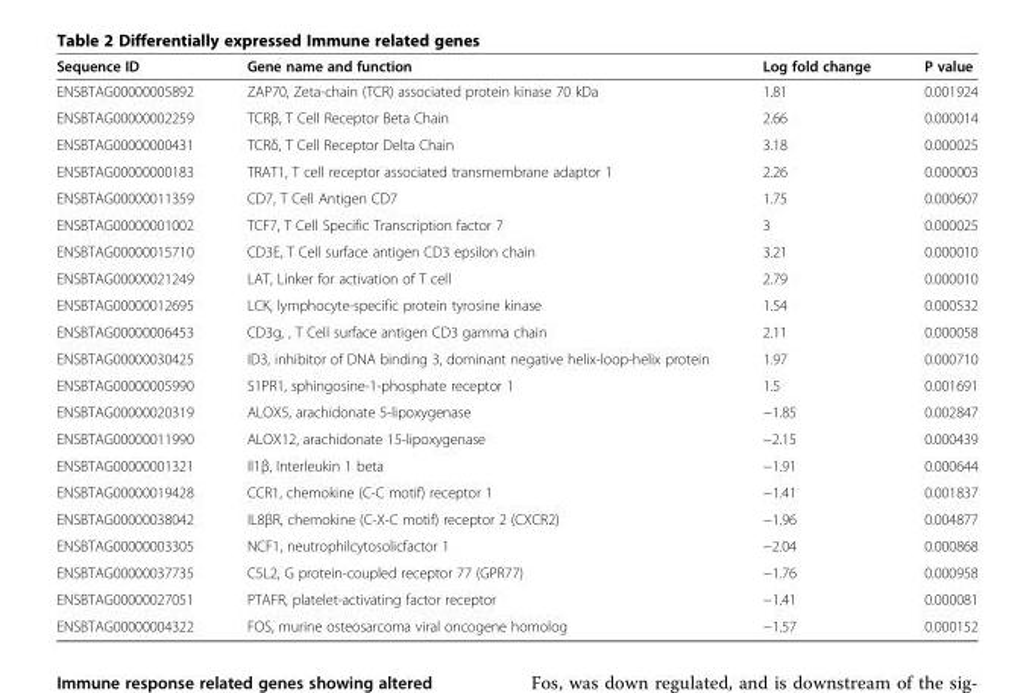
<table><thead><tr><td>Sequence ID</td><td>Gene name and function</td><td>Log fold change</td><td>P value</td></tr></thead><tbody><tr><td>ENSBTAG00000005892</td><td>ZAP70, Zeta-chain (TCR) associated protein kinase 70 kDa</td><td>1.81</td><td>0.001924</td></tr><tr><td>ENSBTAG00000002259</td><td>TCRβ, T Cell Receptor Beta Chain</td><td>2.66</td><td>0.000014</td></tr><tr><td>ENSBTAG00000000431</td><td>TCRδ, T Cell Receptor Delta Chain</td><td>3.18</td><td>0.000025</td></tr><tr><td>ENSBTAG00000000183</td><td>TRAT1, T cell receptor associated transmembrane adaptor 1</td><td>2.26</td><td>0.000003</td></tr><tr><td>ENSBTAG00000011359</td><td>CD7, T Cell Antigen CD7</td><td>1.75</td><td>0.000607</td></tr><tr><td>ENSBTAG00000001002</td><td>TCF7, T Cell Specific Transcription factor 7</td><td>3</td><td>0.000025</td></tr><tr><td>ENSBTAG00000015710</td><td>CD3E, T Cell surface antigen CD3 epsilon chain</td><td>3.21</td><td>0.000010</td></tr><tr><td>ENSBTAG00000021249</td><td>LAT, Linker for activation of T cell</td><td>2.79</td><td>0.000010</td></tr><tr><td>ENSBTAG00000012695</td><td>LCK, lymphocyte-specific protein tyrosine kinase</td><td>1.54</td><td>0.000532</td></tr><tr><td>ENSBTAG00000006453</td><td>CD3g, , T Cell surface antigen CD3 gamma chain</td><td>2.11</td><td>0.000058</td></tr><tr><td>ENSBTAG00000030425</td><td>ID3, inhibitor of DNA binding 3, dominant negative helix-loop-helix protein</td><td>1.97</td><td>0.000710</td></tr><tr><td>ENSBTAG00000005990</td><td>S1PR1, sphingosine-1-phosphate receptor 1</td><td>1.5</td><td>0.001691</td></tr><tr><td>ENSBTAG00000020319</td><td>ALOX5, arachidonate 5-lipoxygenase</td><td>−1.85</td><td>0.002847</td></tr><tr><td>ENSBTAG00000011990</td><td>ALOX12, arachidonate 15-lipoxygenase</td><td>−2.15</td><td>0.000439</td></tr><tr><td>ENSBTAG00000001321</td><td>Il1β, Interleukin 1 beta</td><td>−1.91</td><td>0.000644</td></tr><tr><td>ENSBTAG00000019428</td><td>CCR1, chemokine (C-C motif) receptor 1</td><td>−1.41</td><td>0.001837</td></tr><tr><td>ENSBTAG00000038042</td><td>IL8βR, chemokine (C-X-C motif) receptor 2 (CXCR2)</td><td>−1.96</td><td>0.004877</td></tr><tr><td>ENSBTAG00000003305</td><td>NCF1, neutrophilcytosolicfactor 1</td><td>−2.04</td><td>0.000868</td></tr><tr><td>ENSBTAG00000037735</td><td>C5L2, G protein-coupled receptor 77 (GPR77)</td><td>−1.76</td><td>0.000958</td></tr><tr><td>ENSBTAG00000027051</td><td>PTAFR, platelet-activating factor receptor</td><td>−1.41</td><td>0.000081</td></tr><tr><td>ENSBTAG00000004322</td><td>FOS, murine osteosarcoma viral oncogene homolog</td><td>−1.57</td><td>0.000152</td></tr></tbody></table>